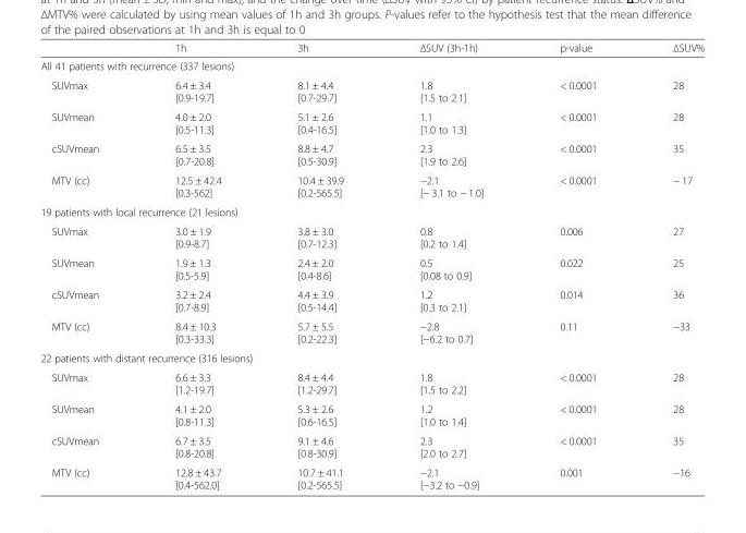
<table><thead><tr><td></td><td>1h</td><td>3h</td><td>ΔSUV (3h-1h)</td><td>p-value</td><td>ΔSUV%</td></tr></thead><tbody><tr><td colspan="6">All 41 patients with recurrence (337 lesions)</td></tr><tr><td>SUVmax</td><td>6.4 ± 3.4 [0.9-19.7]</td><td>8.1 ± 4.4 [0.7-29.7]</td><td>1.8 [1.5 to 2.1]</td><td>&lt; 0.0001</td><td>28</td></tr><tr><td>SUVmean</td><td>4.0 ± 2.0 [0.5-11.3]</td><td>5.1 ± 2.6 [0.4-16.5]</td><td>1.1 [1.0 to 1.3]</td><td>&lt; 0.0001</td><td>28</td></tr><tr><td>cSUVmean</td><td>6.5 ± 3.5 [0.7-20.8]</td><td>8.8 ± 4.7 [0.5-30.9]</td><td>2.3 [1.9 to 2.6]</td><td>&lt; 0.0001</td><td>35</td></tr><tr><td>MTV (cc)</td><td>12.5 ± 42.4 [0.3-562]</td><td>10.4 ± 39.9 [0.2-565.5]</td><td>−2.1 [− 3.1 to − 1.0]</td><td>&lt; 0.0001</td><td>− 17</td></tr><tr><td colspan="6">19 patients with local recurrence (21 lesions)</td></tr><tr><td>SUVmax</td><td>3.0 ± 1.9 [0.9-8.7]</td><td>3.8 ± 3.0 [0.7-12.3]</td><td>0.8 [0.2 to 1.4]</td><td>0.006</td><td>27</td></tr><tr><td>SUVmean</td><td>1.9 ± 1.3 [0.5-5.9]</td><td>2.4 ± 2.0 [0.4-8.6]</td><td>0.5 [0.08 to 0.9]</td><td>0.022</td><td>25</td></tr><tr><td>cSUVmean</td><td>3.2 ± 2.4 [0.7-8.9]</td><td>4.4 ± 3.9 [0.5-14.4]</td><td>1.2 [0.3 to 2.1]</td><td>0.014</td><td>36</td></tr><tr><td>MTV (cc)</td><td>8.4 ± 10.3 [0.3-33.3]</td><td>5.7 ± 5.5 [0.2-22.3]</td><td>−2.8 [−6.2 to 0.7]</td><td>0.11</td><td>−33</td></tr><tr><td colspan="6">22 patients with distant recurrence (316 lesions)</td></tr><tr><td>SUVmax</td><td>6.6 ± 3.3 [1.2-19.7]</td><td>8.4 ± 4.4 [1.2-29.7]</td><td>1.8 [1.5 to 2.2]</td><td>&lt; 0.0001</td><td>28</td></tr><tr><td>SUVmean</td><td>4.1 ± 2.0 [0.8-11.3]</td><td>5.3 ± 2.6 [0.6-16.5]</td><td>1.2 [1.0 to 1.4]</td><td>&lt; 0.0001</td><td>28</td></tr><tr><td>cSUVmean</td><td>6.7 ± 3.5 [0.8-20.8]</td><td>9.1 ± 4.6 [0.8-30.9]</td><td>2.3 [2.0 to 2.7]</td><td>&lt; 0.0001</td><td>35</td></tr><tr><td>MTV (cc)</td><td>12.8 ± 43.7 [0.4-562.0]</td><td>10.7 ± 41.1 [0.2-565.5]</td><td>−2.1 [−3.2 to −0.9]</td><td>0.001</td><td>−16</td></tr></tbody></table>